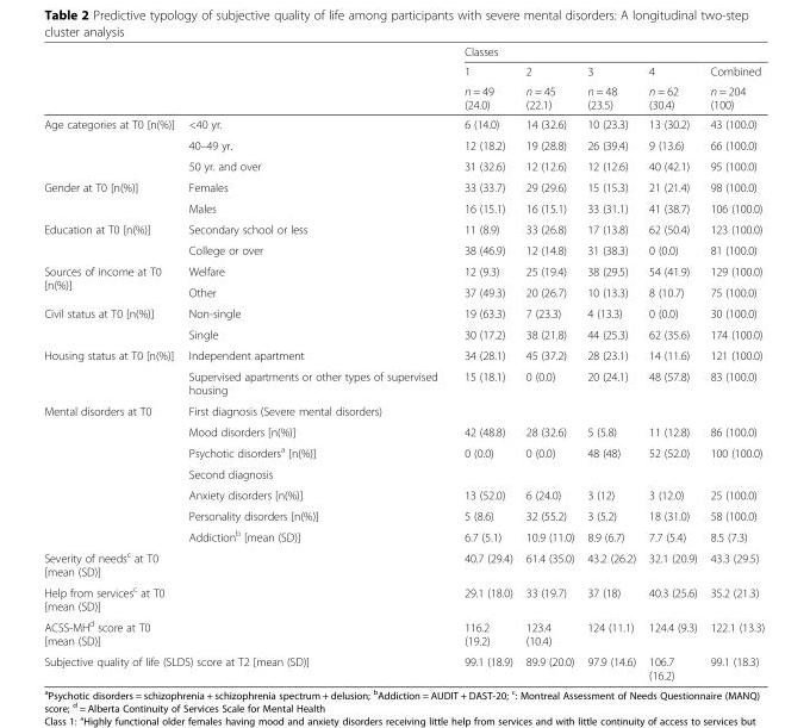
<table><thead><tr><td rowspan="3"></td><td rowspan="3"></td><td colspan="5">Classes</td></tr><tr><td rowspan="2">1 n = 49 (24.0)</td><td rowspan="2">2 n = 45 (22.1)</td><td rowspan="2">3 n = 48 (23.5)</td><td rowspan="2">4 n = 62 (30.4)</td><td rowspan="2">Combined n = 204 (100)</td></tr><tr></tr></thead><tbody><tr><td rowspan="3">Age categories at T0 [n(%)]</td><td>&lt;40 yr.</td><td>6 (14.0)</td><td>14 (32.6)</td><td>10 (23.3)</td><td>13 (30.2)</td><td>43 (100.0)</td></tr><tr><td>40–49 yr.</td><td>12 (18.2)</td><td>19 (28.8)</td><td>26 (39.4)</td><td>9 (13.6)</td><td>66 (100.0)</td></tr><tr><td>50 yr. and over</td><td>31 (32.6)</td><td>12 (12.6)</td><td>12 (12.6)</td><td>40 (42.1)</td><td>95 (100.0)</td></tr><tr><td rowspan="2">Gender at T0 [n(%)]</td><td>Females</td><td>33 (33.7)</td><td>29 (29.6)</td><td>15 (15.3)</td><td>21 (21.4)</td><td>98 (100.0)</td></tr><tr><td>Males</td><td>16 (15.1)</td><td>16 (15.1)</td><td>33 (31.1)</td><td>41 (38.7)</td><td>106 (100.0)</td></tr><tr><td rowspan="2">Education at T0 [n(%)]</td><td>Secondary school or less</td><td>11 (8.9)</td><td>33 (26.8)</td><td>17 (13.8)</td><td>62 (50.4)</td><td>123 (100.0)</td></tr><tr><td>College or over</td><td>38 (46.9)</td><td>12 (14.8)</td><td>31 (38.3)</td><td>0 (0.0)</td><td>81 (100.0)</td></tr><tr><td rowspan="2">Sources of income at T0 [n(%)]</td><td>Welfare</td><td>12 (9.3)</td><td>25 (19.4)</td><td>38 (29.5)</td><td>54 (41.9)</td><td>129 (100.0)</td></tr><tr><td>Other</td><td>37 (49.3)</td><td>20 (26.7)</td><td>10 (13.3)</td><td>8 (10.7)</td><td>75 (100.0)</td></tr><tr><td rowspan="2">Civil status at T0 [n(%)]</td><td>Non-single</td><td>19 (63.3)</td><td>7 (23.3)</td><td>4 (13.3)</td><td>0 (0.0)</td><td>30 (100.0)</td></tr><tr><td>Single</td><td>30 (17.2)</td><td>38 (21.8)</td><td>44 (25.3)</td><td>62 (35.6)</td><td>174 (100.0)</td></tr><tr><td rowspan="2">Housing status at T0 [n(%)]</td><td>Independent apartment</td><td>34 (28.1)</td><td>45 (37.2)</td><td>28 (23.1)</td><td>14 (11.6)</td><td>121 (100.0)</td></tr><tr><td>Supervised apartments or other types of supervised housing</td><td>15 (18.1)</td><td>0 (0.0)</td><td>20 (24.1)</td><td>48 (57.8)</td><td>83 (100.0)</td></tr><tr><td rowspan="7">Mental disorders at T0</td><td colspan="6">First diagnosis (Severe mental disorders)</td></tr><tr><td>Mood disorders [n(%)]</td><td>42 (48.8)</td><td>28 (32.6)</td><td>5 (5.8)</td><td>11 (12.8)</td><td>86 (100.0)</td></tr><tr><td>Psychotic disorders<sup>a</sup> [n(%)]</td><td>0 (0.0)</td><td>0 (0.0)</td><td>48 (48)</td><td>52 (52.0)</td><td>100 (100.0)</td></tr><tr><td>Second diagnosis</td><td></td><td></td><td></td><td></td><td></td></tr><tr><td>Anxiety disorders [n(%)]</td><td>13 (52.0)</td><td>6 (24.0)</td><td>3 (12)</td><td>3 (12.0)</td><td>25 (100.0)</td></tr><tr><td>Personality disorders [n(%)]</td><td>5 (8.6)</td><td>32 (55.2)</td><td>3 (5.2)</td><td>18 (31.0)</td><td>58 (100.0)</td></tr><tr><td>Addiction<sup>b</sup> [mean (SD)]</td><td>6.7 (5.1)</td><td>10.9 (11.0)</td><td>8.9 (6.7)</td><td>7.7 (5.4)</td><td>8.5 (7.3)</td></tr><tr><td>Severity of needs<sup>c</sup> at T0 [mean (SD)]</td><td></td><td>40.7 (29.4)</td><td>61.4 (35.0)</td><td>43.2 (26.2)</td><td>32.1 (20.9)</td><td>43.3 (29.5)</td></tr><tr><td>Help from services<sup>c</sup> at T0 [mean (SD)]</td><td></td><td>29.1 (18.0)</td><td>33 (19.7)</td><td>37 (18)</td><td>40.3 (25.6)</td><td>35.2 (21.3)</td></tr><tr><td>ACSS-MH<sup>d</sup> score at T0 [mean (SD)]</td><td></td><td>116.2 (19.2)</td><td>123.4 (10.4)</td><td>124 (11.1)</td><td>124.4 (9.3)</td><td>122.1 (13.3)</td></tr><tr><td colspan="2">Subjective quality of life (SLDS) score at T2 [mean (SD)]</td><td>99.1 (18.9)</td><td>89.9 (20.0)</td><td>97.9 (14.6)</td><td>106.7 (16.2)</td><td>99.1 (18.3)</td></tr></tbody></table>